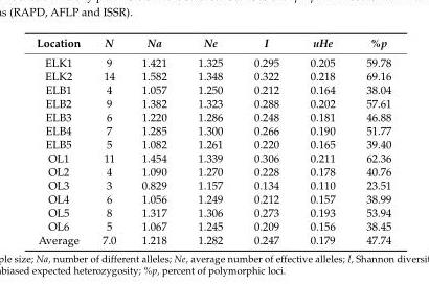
<table><thead><tr><td>Location</td><td>N</td><td>Na</td><td>Ne</td><td>I</td><td>uHe</td><td>%p</td></tr></thead><tbody><tr><td>ELK1</td><td>9</td><td>1.421</td><td>1.325</td><td>0.295</td><td>0.205</td><td>59.78</td></tr><tr><td>ELK2</td><td>14</td><td>1.582</td><td>1.348</td><td>0.322</td><td>0.218</td><td>69.16</td></tr><tr><td>ELB1</td><td>4</td><td>1.057</td><td>1.250</td><td>0.212</td><td>0.164</td><td>38.04</td></tr><tr><td>ELB2</td><td>9</td><td>1.382</td><td>1.323</td><td>0.288</td><td>0.202</td><td>57.61</td></tr><tr><td>ELB3</td><td>6</td><td>1.220</td><td>1.286</td><td>0.248</td><td>0.181</td><td>46.88</td></tr><tr><td>ELB4</td><td>7</td><td>1.285</td><td>1.300</td><td>0.266</td><td>0.190</td><td>51.77</td></tr><tr><td>ELB5</td><td>5</td><td>1.082</td><td>1.261</td><td>0.220</td><td>0.165</td><td>39.40</td></tr><tr><td>OL1</td><td>11</td><td>1.454</td><td>1.339</td><td>0.306</td><td>0.211</td><td>62.36</td></tr><tr><td>OL2</td><td>4</td><td>1.090</td><td>1.270</td><td>0.228</td><td>0.178</td><td>40.76</td></tr><tr><td>OL3</td><td>3</td><td>0.829</td><td>1.157</td><td>0.134</td><td>0.110</td><td>23.51</td></tr><tr><td>OL4</td><td>6</td><td>1.056</td><td>1.249</td><td>0.212</td><td>0.157</td><td>38.99</td></tr><tr><td>OL5</td><td>8</td><td>1.317</td><td>1.306</td><td>0.273</td><td>0.193</td><td>53.94</td></tr><tr><td>OL6</td><td>5</td><td>1.067</td><td>1.245</td><td>0.209</td><td>0.156</td><td>38.45</td></tr><tr><td>Average</td><td>7.0</td><td>1.218</td><td>1.282</td><td>0.247</td><td>0.179</td><td>47.74</td></tr></tbody></table>